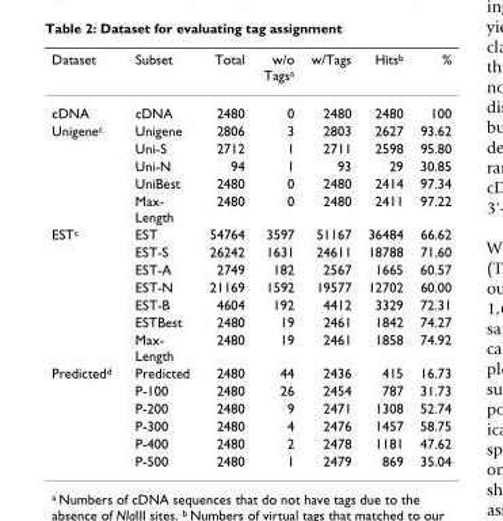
<table><thead><tr><td>Dataset</td><td>Subset</td><td>Total</td><td>w/o Tags<sup>a</sup></td><td>w/Tags</td><td>Hits<sup>b</sup></td><td>%</td></tr></thead><tbody><tr><td>cDNA</td><td>cDNA</td><td>2480</td><td>0</td><td>2480</td><td>2480</td><td>100</td></tr><tr><td rowspan="5">Unigene<sup>c</sup></td><td>Unigene</td><td>2806</td><td>3</td><td>2803</td><td>2627</td><td>93.62</td></tr><tr><td>Uni-S</td><td>2712</td><td>1</td><td>2711</td><td>2598</td><td>95.80</td></tr><tr><td>Uni-N</td><td>94</td><td>1</td><td>93</td><td>29</td><td>30.85</td></tr><tr><td>UniBest</td><td>2480</td><td>0</td><td>2480</td><td>2414</td><td>97.34</td></tr><tr><td>Max- Length</td><td>2480</td><td>0</td><td>2480</td><td>2411</td><td>97.22</td></tr><tr><td rowspan="7">EST<sup>c</sup></td><td>EST</td><td>54764</td><td>3597</td><td>51167</td><td>36484</td><td>66.62</td></tr><tr><td>EST-S</td><td>26242</td><td>1631</td><td>24611</td><td>18788</td><td>71.60</td></tr><tr><td>EST-A</td><td>2749</td><td>182</td><td>2567</td><td>1665</td><td>60.57</td></tr><tr><td>EST-N</td><td>21169</td><td>1592</td><td>19577</td><td>12702</td><td>60.00</td></tr><tr><td>EST-B</td><td>4604</td><td>192</td><td>4412</td><td>3329</td><td>72.31</td></tr><tr><td>ESTBest</td><td>2480</td><td>19</td><td>2461</td><td>1842</td><td>74.27</td></tr><tr><td>Max- Length</td><td>2480</td><td>19</td><td>2461</td><td>1858</td><td>74.92</td></tr><tr><td rowspan="6">Predicted<sup>d</sup></td><td>Predicted</td><td>2480</td><td>44</td><td>2436</td><td>415</td><td>16.73</td></tr><tr><td>P-100</td><td>2480</td><td>26</td><td>2454</td><td>787</td><td>31.73</td></tr><tr><td>P-200</td><td>2480</td><td>9</td><td>2471</td><td>1308</td><td>52.74</td></tr><tr><td>P-300</td><td>2480</td><td>4</td><td>2476</td><td>1457</td><td>58.75</td></tr><tr><td>P-400</td><td>2480</td><td>2</td><td>2478</td><td>1181</td><td>47.62</td></tr><tr><td>P-500</td><td>2480</td><td>1</td><td>2479</td><td>869</td><td>35.04</td></tr></tbody></table>